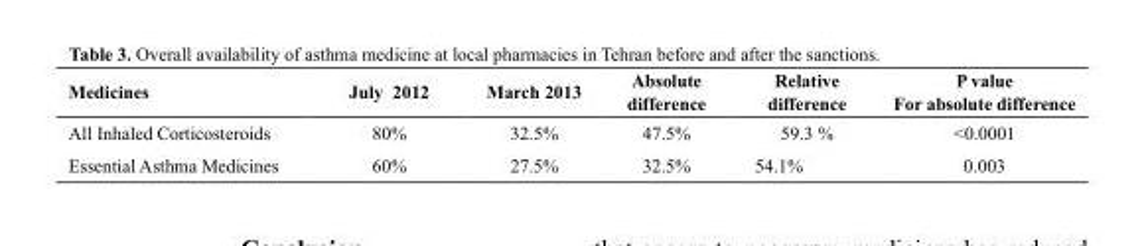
<table><thead><tr><td>P value For absolute difference</td><td>Relative difference</td><td>Absolute difference</td><td>March 2013</td><td>July 2012</td><td>Medicines</td></tr></thead><tbody><tr><td>&lt;0.0001</td><td>59.3 %</td><td>47.5%</td><td>32.5%</td><td>80%</td><td>All Inhaled Corticosteroids</td></tr><tr><td>0.003</td><td>54.1%</td><td>32.5%</td><td>27.5%</td><td>60%</td><td>Essential Asthma Medicines</td></tr></tbody></table>